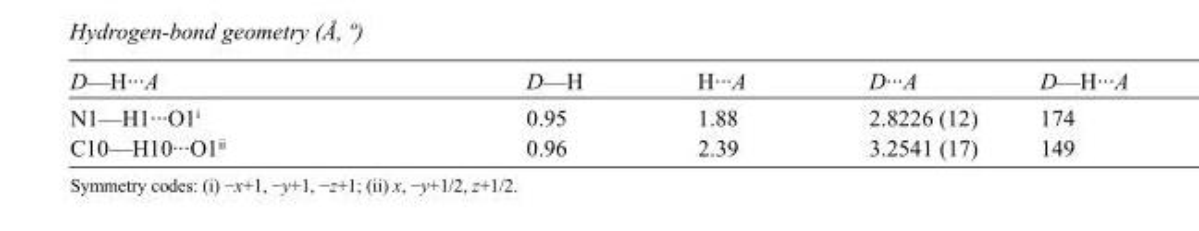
<table><tbody><tr><td>D—H···A</td><td>D—H</td><td>H···A</td><td>D···A</td><td>D—H···A</td></tr><tr><td>N1—H1···O1<sup>i</sup></td><td>0.95</td><td>1.88</td><td>2.8226 (12)</td><td>174</td></tr><tr><td>C10—H10···O1<sup>ii</sup></td><td>0.96</td><td>2.39</td><td>3.2541 (17)</td><td>149</td></tr></tbody></table>